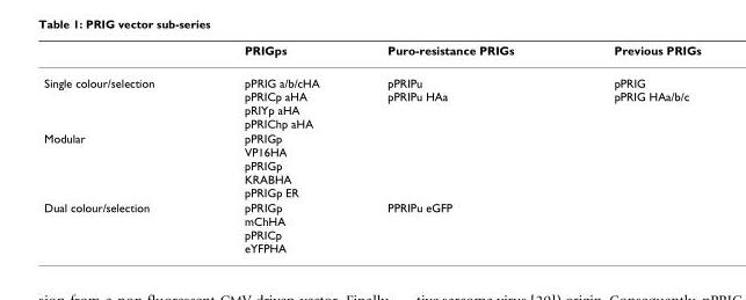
<table><thead><tr><td></td><td>PRIGps</td><td>Puro-resistance PRIGs</td><td>Previous PRIGs</td></tr></thead><tbody><tr><td>Single colour/selection</td><td>pPRIG a/b/cHA pPRICp aHA pRIYp aHA pPRIChp aHA</td><td>pPRIPu pPRIPu HAa</td><td>pPRIG pPRIG HAa/b/c</td></tr><tr><td>Modular</td><td>pPRIGp VP16HA pPRIGp KRABHA pPRIGp ER</td><td></td><td></td></tr><tr><td>Dual colour/selection</td><td>pPRIGp mChHA pPRICp eYFPHA</td><td>PPRIPu eGFP</td><td></td></tr></tbody></table>